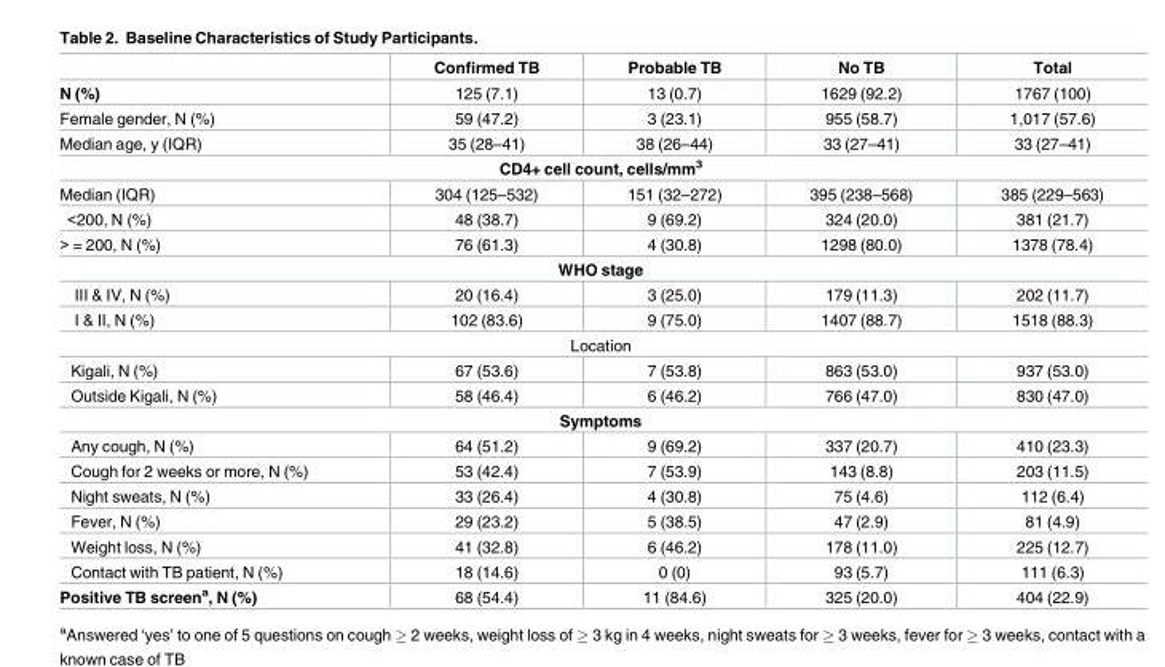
<table><thead><tr><td></td><td>Confirmed TB</td><td>Probable TB</td><td>No TB</td><td>Total</td></tr></thead><tbody><tr><td>N (%)</td><td>125 (7.1)</td><td>13 (0.7)</td><td>1629 (92.2)</td><td>1767 (100)</td></tr><tr><td>Female gender, N (%)</td><td>59 (47.2)</td><td>3 (23.1)</td><td>955 (58.7)</td><td>1,017 (57.6)</td></tr><tr><td>Median age, y (IQR)</td><td>35 (28–41)</td><td>38 (26–44)</td><td>33 (27–41)</td><td>33 (27–41)</td></tr><tr><td colspan="5">CD4+ cell count, cells/mm<sup>3</sup></td></tr><tr><td>Median (IQR)</td><td>304 (125–532)</td><td>151 (32–272)</td><td>395 (238–568)</td><td>385 (229–563)</td></tr><tr><td>&lt;200, N (%)</td><td>48 (38.7)</td><td>9 (69.2)</td><td>324 (20.0)</td><td>381 (21.7)</td></tr><tr><td>&gt; = 200, N (%)</td><td>76 (61.3)</td><td>4 (30.8)</td><td>1298 (80.0)</td><td>1378 (78.4)</td></tr><tr><td colspan="5">WHO stage</td></tr><tr><td>III &amp; IV, N (%)</td><td>20 (16.4)</td><td>3 (25.0)</td><td>179 (11.3)</td><td>202 (11.7)</td></tr><tr><td>I &amp; II, N (%)</td><td>102 (83.6)</td><td>9 (75.0)</td><td>1407 (88.7)</td><td>1518 (88.3)</td></tr><tr><td colspan="5">Location</td></tr><tr><td>Kigali, N (%)</td><td>67 (53.6)</td><td>7 (53.8)</td><td>863 (53.0)</td><td>937 (53.0)</td></tr><tr><td>Outside Kigali, N (%)</td><td>58 (46.4)</td><td>6 (46.2)</td><td>766 (47.0)</td><td>830 (47.0)</td></tr><tr><td colspan="5">Symptoms</td></tr><tr><td>Any cough, N (%)</td><td>64 (51.2)</td><td>9 (69.2)</td><td>337 (20.7)</td><td>410 (23.3)</td></tr><tr><td>Cough for 2 weeks or more, N (%)</td><td>53 (42.4)</td><td>7 (53.9)</td><td>143 (8.8)</td><td>203 (11.5)</td></tr><tr><td>Night sweats, N (%)</td><td>33 (26.4)</td><td>4 (30.8)</td><td>75 (4.6)</td><td>112 (6.4)</td></tr><tr><td>Fever, N (%)</td><td>29 (23.2)</td><td>5 (38.5)</td><td>47 (2.9)</td><td>81 (4.9)</td></tr><tr><td>Weight loss, N (%)</td><td>41 (32.8)</td><td>6 (46.2)</td><td>178 (11.0)</td><td>225 (12.7)</td></tr><tr><td>Contact with TB patient, N (%)</td><td>18 (14.6)</td><td>0 (0)</td><td>93 (5.7)</td><td>111 (6.3)</td></tr><tr><td>Positive TB screen<sup>a</sup>, N (%)</td><td>68 (54.4)</td><td>11 (84.6)</td><td>325 (20.0)</td><td>404 (22.9)</td></tr></tbody></table>